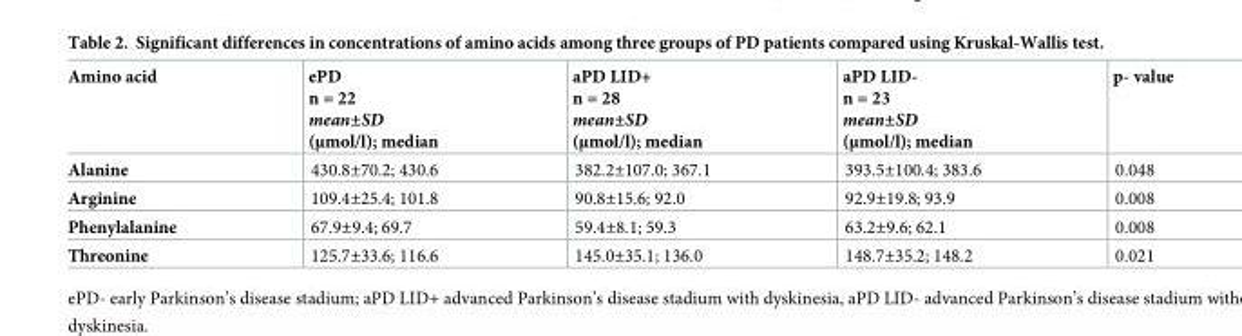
<table><thead><tr><td>Amino acid</td><td>ePD n = 22 mean±SD (μmol/l); median</td><td>aPD LID+ n = 28 mean±SD (μmol/l); median</td><td>aPD LID- n = 23 mean±SD (μmol/l); median</td><td>p- value</td></tr></thead><tbody><tr><td>Alanine</td><td>430.8±70.2; 430.6</td><td>382.2±107.0; 367.1</td><td>393.5±100.4; 383.6</td><td>0.048</td></tr><tr><td>Arginine</td><td>109.4±25.4; 101.8</td><td>90.8±15.6; 92.0</td><td>92.9±19.8; 93.9</td><td>0.008</td></tr><tr><td>Phenylalanine</td><td>67.9±9.4; 69.7</td><td>59.4±8.1; 59.3</td><td>63.2±9.6; 62.1</td><td>0.008</td></tr><tr><td>Threonine</td><td>125.7±33.6; 116.6</td><td>145.0±35.1; 136.0</td><td>148.7±35.2; 148.2</td><td>0.021</td></tr></tbody></table>